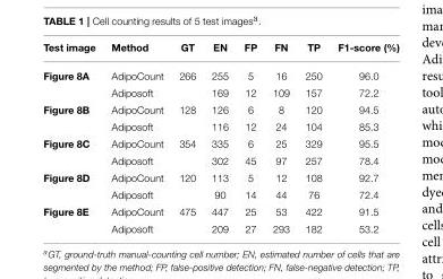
<table><thead><tr><td>Test image</td><td>Method</td><td>GT</td><td>EN</td><td>FP</td><td>FN</td><td>TP</td><td>F1-score (%)</td></tr></thead><tbody><tr><td rowspan="2">Figure 8A</td><td>AdipoCount</td><td>266</td><td>255</td><td>5</td><td>16</td><td>250</td><td>96.0</td></tr><tr><td>Adiposoft</td><td></td><td>169</td><td>12</td><td>109</td><td>157</td><td>72.2</td></tr><tr><td rowspan="2">Figure 8B</td><td>AdipoCount</td><td>128</td><td>126</td><td>6</td><td>8</td><td>120</td><td>94.5</td></tr><tr><td>Adiposoft</td><td></td><td>116</td><td>12</td><td>24</td><td>104</td><td>85.3</td></tr><tr><td rowspan="2">Figure 8C</td><td>AdipoCount</td><td>354</td><td>335</td><td>6</td><td>25</td><td>329</td><td>95.5</td></tr><tr><td>Adiposoft</td><td></td><td>302</td><td>45</td><td>97</td><td>257</td><td>78.4</td></tr><tr><td rowspan="2">Figure 8D</td><td>AdipoCount</td><td>120</td><td>113</td><td>5</td><td>12</td><td>108</td><td>92.7</td></tr><tr><td>Adiposoft</td><td></td><td>90</td><td>14</td><td>44</td><td>76</td><td>72.4</td></tr><tr><td rowspan="2">Figure 8E</td><td>AdipoCount</td><td>475</td><td>447</td><td>25</td><td>53</td><td>422</td><td>91.5</td></tr><tr><td>Adiposoft</td><td></td><td>209</td><td>27</td><td>293</td><td>182</td><td>53.2</td></tr></tbody></table>